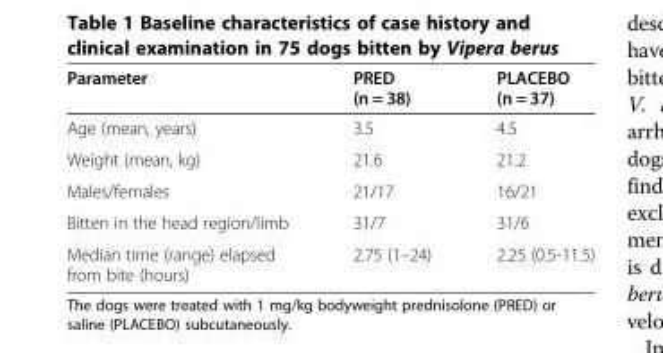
<table><thead><tr><td>Parameter</td><td>PRED (n = 38)</td><td>PLACEBO (n = 37)</td></tr></thead><tbody><tr><td>Age (mean, years)</td><td>3.5</td><td>4.5</td></tr><tr><td>Weight (mean, kg)</td><td>21.6</td><td>21.2</td></tr><tr><td>Males/females</td><td>21/17</td><td>16/21</td></tr><tr><td>Bitten in the head region/limb</td><td>31/7</td><td>31/6</td></tr><tr><td>Median time (range) elapsed from bite (hours)</td><td>2.75 (1–24)</td><td>2.25 (0.5-11.5)</td></tr></tbody></table>